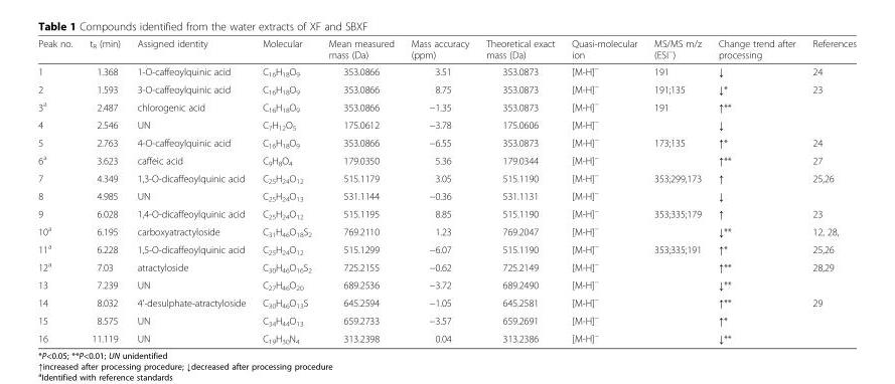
<table><thead><tr><td>Peak no.</td><td>t<sub>R</sub> (min)</td><td>Assigned identity</td><td>Molecular</td><td>Mean measured mass (Da)</td><td>Mass accuracy (ppm)</td><td>Theoretical exact mass (Da)</td><td>Quasi-molecular ion</td><td>MS/MS m/z (ESI<sup>−</sup>)</td><td>Change trend after processing</td><td>References</td></tr></thead><tbody><tr><td>1</td><td>1.368</td><td>1-O-caffeoylquinic acid</td><td>C<sub>16</sub>H<sub>18</sub>O<sub>9</sub></td><td>353.0866</td><td>3.51</td><td>353.0873</td><td>[M-H]<sup>−</sup></td><td>191</td><td>↓</td><td>24</td></tr><tr><td>2</td><td>1.593</td><td>3-O-caffeoylquinic acid</td><td>C<sub>16</sub>H<sub>18</sub>O<sub>9</sub></td><td>353.0866</td><td>8.75</td><td>353.0873</td><td>[M-H]<sup>−</sup></td><td>191;135</td><td>↓*</td><td>23</td></tr><tr><td>3<sup>a</sup></td><td>2.487</td><td>chlorogenic acid</td><td>C<sub>16</sub>H<sub>18</sub>O<sub>9</sub></td><td>353.0866</td><td>−1.35</td><td>353.0873</td><td>[M-H]<sup>−</sup></td><td>191</td><td>↑**</td><td></td></tr><tr><td>4</td><td>2.546</td><td>UN</td><td>C<sub>7</sub>H<sub>12</sub>O<sub>5</sub></td><td>175.0612</td><td>−3.78</td><td>175.0606</td><td>[M-H]<sup>−</sup></td><td></td><td>↓</td><td></td></tr><tr><td>5</td><td>2.763</td><td>4-O-caffeoylquinic acid</td><td>C<sub>16</sub>H<sub>18</sub>O<sub>9</sub></td><td>353.0866</td><td>−6.55</td><td>353.0873</td><td>[M-H]<sup>−</sup></td><td>173;135</td><td>↑*</td><td>24</td></tr><tr><td>6<sup>a</sup></td><td>3.623</td><td>caffeic acid</td><td>C<sub>9</sub>H<sub>8</sub>O<sub>4</sub></td><td>179.0350</td><td>5.36</td><td>179.0344</td><td>[M-H]<sup>−</sup></td><td></td><td>↑**</td><td>27</td></tr><tr><td>7</td><td>4.349</td><td>1,3-O-dicaffeoylquinic acid</td><td>C<sub>25</sub>H<sub>24</sub>O<sub>12</sub></td><td>515.1179</td><td>3.05</td><td>515.1190</td><td>[M-H]<sup>−</sup></td><td>353;299,173</td><td>↑</td><td>25,26</td></tr><tr><td>8</td><td>4.985</td><td>UN</td><td>C<sub>25</sub>H<sub>24</sub>O<sub>13</sub></td><td>531.1144</td><td>−0.36</td><td>531.1131</td><td>[M-H]<sup>−</sup></td><td></td><td>↓</td><td></td></tr><tr><td>9</td><td>6.028</td><td>1,4-O-dicaffeoylquinic acid</td><td>C<sub>25</sub>H<sub>24</sub>O<sub>12</sub></td><td>515.1195</td><td>8.85</td><td>515.1190</td><td>[M-H]<sup>−</sup></td><td>353;335;179</td><td>↑</td><td>23</td></tr><tr><td>10<sup>a</sup></td><td>6.195</td><td>carboxyatractyloside</td><td>C<sub>31</sub>H<sub>46</sub>O<sub>18</sub>S<sub>2</sub></td><td>769.2110</td><td>1.23</td><td>769.2047</td><td>[M-H]<sup>−</sup></td><td></td><td>↓**</td><td>12, 28,</td></tr><tr><td>11<sup>a</sup></td><td>6.228</td><td>1,5-O-dicaffeoylquinic acid</td><td>C<sub>25</sub>H<sub>24</sub>O<sub>12</sub></td><td>515.1299</td><td>−6.07</td><td>515.1190</td><td>[M-H]<sup>−</sup></td><td>353;335;191</td><td>↑*</td><td>25,26</td></tr><tr><td>12<sup>a</sup></td><td>7.03</td><td>atractyloside</td><td>C<sub>30</sub>H<sub>46</sub>O<sub>16</sub>S<sub>2</sub></td><td>725.2155</td><td>−0.62</td><td>725.2149</td><td>[M-H]<sup>−</sup></td><td></td><td>↑**</td><td>28,29</td></tr><tr><td>13</td><td>7.239</td><td>UN</td><td>C<sub>27</sub>H<sub>46</sub>O<sub>20</sub></td><td>689.2536</td><td>−3.72</td><td>689.2490</td><td>[M-H]<sup>−</sup></td><td></td><td>↓**</td><td></td></tr><tr><td>14</td><td>8.032</td><td>4&#x27;-desulphate-atractyloside</td><td>C<sub>30</sub>H<sub>46</sub>O<sub>13</sub>S</td><td>645.2594</td><td>−1.05</td><td>645.2581</td><td>[M-H]<sup>−</sup></td><td></td><td>↑**</td><td>29</td></tr><tr><td>15</td><td>8.575</td><td>UN</td><td>C<sub>34</sub>H<sub>44</sub>O<sub>13</sub></td><td>659.2733</td><td>−3.57</td><td>659.2691</td><td>[M-H]<sup>−</sup></td><td></td><td>↑*</td><td></td></tr><tr><td>16</td><td>11.119</td><td>UN</td><td>C<sub>19</sub>H<sub>30</sub>N<sub>4</sub></td><td>313.2398</td><td>0.04</td><td>313.2386</td><td>[M-H]<sup>−</sup></td><td></td><td>↓**</td><td></td></tr></tbody></table>